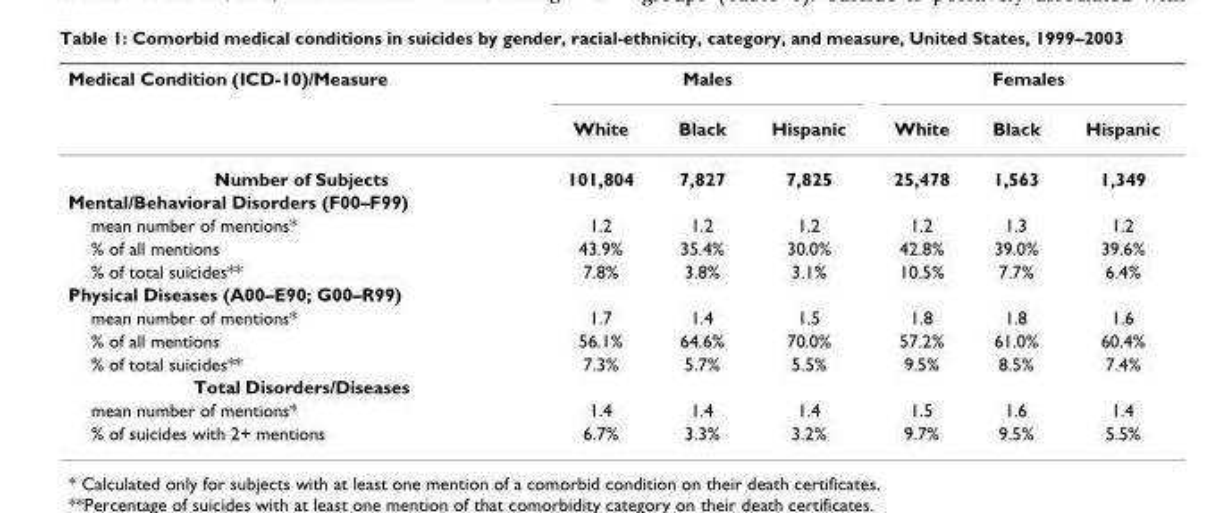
<table><thead><tr><td rowspan="2">Medical Condition (ICD-10)/Measure</td><td colspan="3">Males</td><td colspan="3">Females</td></tr><tr><td>White</td><td>Black</td><td>Hispanic</td><td>White</td><td>Black</td><td>Hispanic</td></tr></thead><tbody><tr><td>Number of Subjects</td><td>101,804</td><td>7,827</td><td>7,825</td><td>25,478</td><td>1,563</td><td>1,349</td></tr><tr><td colspan="7">Mental/Behavioral Disorders (F00–F99)</td></tr><tr><td>mean number of mentions*</td><td>1.2</td><td>1.2</td><td>1.2</td><td>1.2</td><td>1.3</td><td>1.2</td></tr><tr><td>% of all mentions</td><td>43.9%</td><td>35.4%</td><td>30.0%</td><td>42.8%</td><td>39.0%</td><td>39.6%</td></tr><tr><td>% of total suicides**</td><td>7.8%</td><td>3.8%</td><td>3.1%</td><td>10.5%</td><td>7.7%</td><td>6.4%</td></tr><tr><td colspan="7">Physical Diseases (A00–E90; G00–R99)</td></tr><tr><td>mean number of mentions*</td><td>1.7</td><td>1.4</td><td>1.5</td><td>1.8</td><td>1.8</td><td>1.6</td></tr><tr><td>% of all mentions</td><td>56.1%</td><td>64.6%</td><td>70.0%</td><td>57.2%</td><td>61.0%</td><td>60.4%</td></tr><tr><td>% of total suicides**</td><td>7.3%</td><td>5.7%</td><td>5.5%</td><td>9.5%</td><td>8.5%</td><td>7.4%</td></tr><tr><td colspan="7">Total Disorders/Diseases</td></tr><tr><td>mean number of mentions*</td><td>1.4</td><td>1.4</td><td>1.4</td><td>1.5</td><td>1.6</td><td>1.4</td></tr><tr><td>% of suicides with 2+ mentions</td><td>6.7%</td><td>3.3%</td><td>3.2%</td><td>9.7%</td><td>9.5%</td><td>5.5%</td></tr></tbody></table>